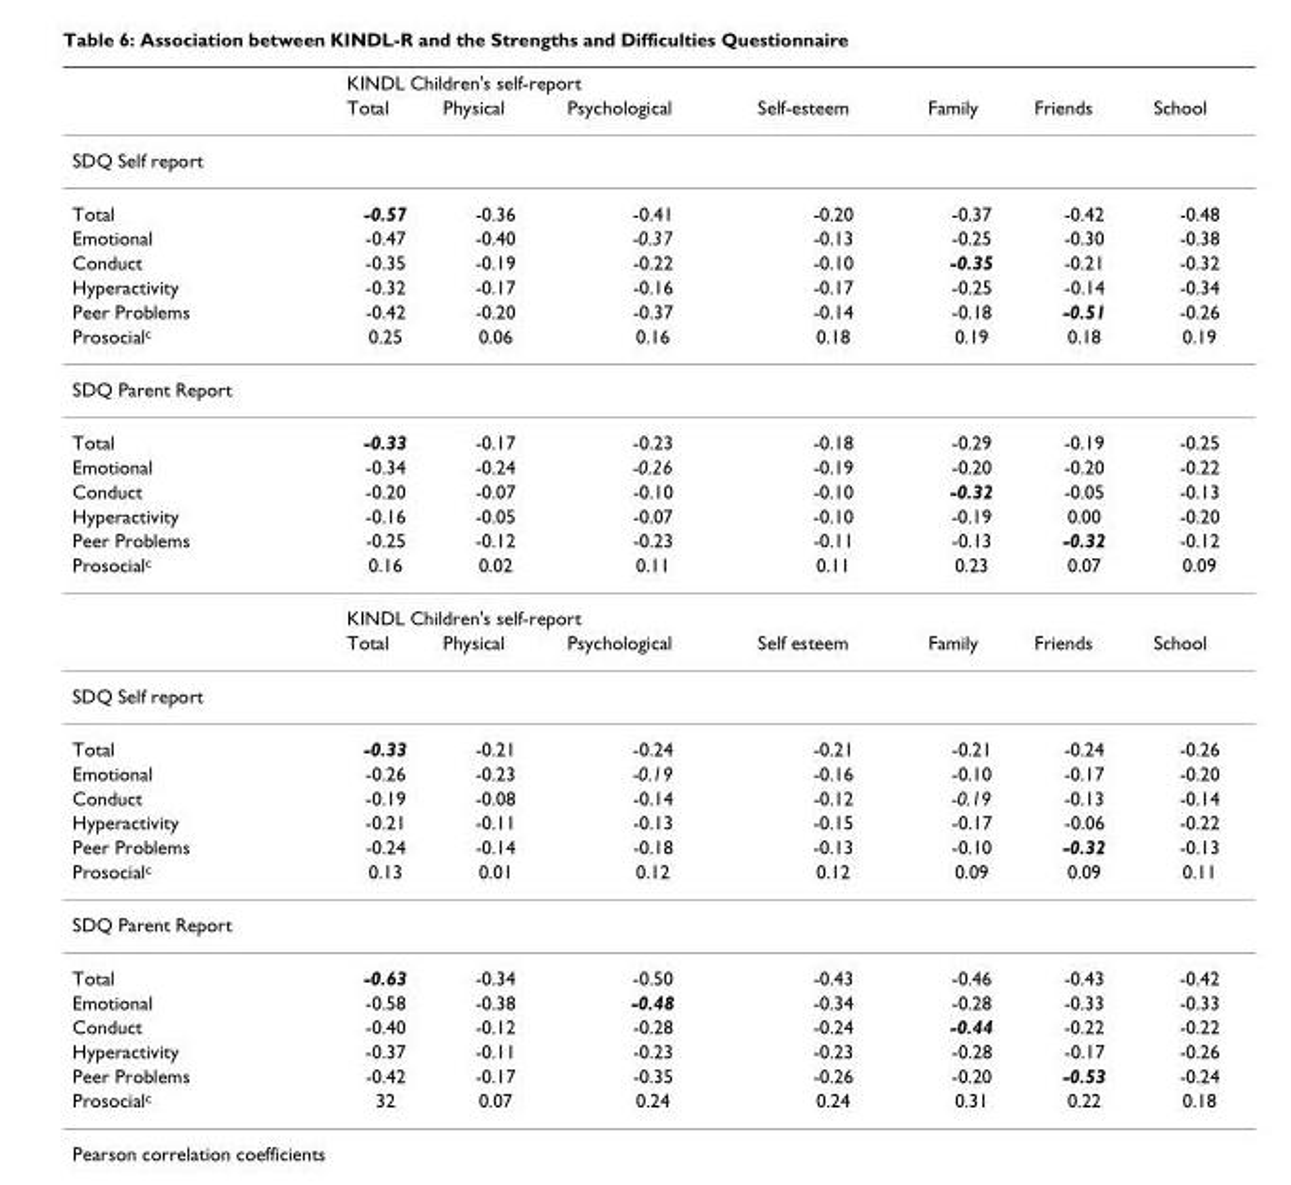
<table><thead><tr><td rowspan="2"></td><td colspan="7">KINDL Children&#x27;s self-report</td></tr><tr><td>Total</td><td>Physical</td><td>Psychological</td><td>Self-esteem</td><td>Family</td><td>Friends</td><td>School</td></tr></thead><tbody><tr><td colspan="8">SDQ Self report</td></tr><tr><td>Total</td><td>-0.57</td><td>-0.36</td><td>-0.41</td><td>-0.20</td><td>-0.37</td><td>-0.42</td><td>-0.48</td></tr><tr><td>Emotional</td><td>-0.47</td><td>-0.40</td><td>-0.37</td><td>-0.13</td><td>-0.25</td><td>-0.30</td><td>-0.38</td></tr><tr><td>Conduct</td><td>-0.35</td><td>-0.19</td><td>-0.22</td><td>-0.10</td><td>-0.35</td><td>-0.21</td><td>-0.32</td></tr><tr><td>Hyperactivity</td><td>-0.32</td><td>-0.17</td><td>-0.16</td><td>-0.17</td><td>-0.25</td><td>-0.14</td><td>-0.34</td></tr><tr><td>Peer Problems</td><td>-0.42</td><td>-0.20</td><td>-0.37</td><td>-0.14</td><td>-0.18</td><td>-0.51</td><td>-0.26</td></tr><tr><td>Prosocial<sup>c</sup></td><td>0.25</td><td>0.06</td><td>0.16</td><td>0.18</td><td>0.19</td><td>0.18</td><td>0.19</td></tr><tr><td colspan="8">SDQ Parent Report</td></tr><tr><td>Total</td><td>-0.33</td><td>-0.17</td><td>-0.23</td><td>-0.18</td><td>-0.29</td><td>-0.19</td><td>-0.25</td></tr><tr><td>Emotional</td><td>-0.34</td><td>-0.24</td><td>-0.26</td><td>-0.19</td><td>-0.20</td><td>-0.20</td><td>-0.22</td></tr><tr><td>Conduct</td><td>-0.20</td><td>-0.07</td><td>-0.10</td><td>-0.10</td><td>-0.32</td><td>-0.05</td><td>-0.13</td></tr><tr><td>Hyperactivity</td><td>-0.16</td><td>-0.05</td><td>-0.07</td><td>-0.10</td><td>-0.19</td><td>0.00</td><td>-0.20</td></tr><tr><td>Peer Problems</td><td>-0.25</td><td>-0.12</td><td>-0.23</td><td>-0.11</td><td>-0.13</td><td>-0.32</td><td>-0.12</td></tr><tr><td rowspan="3">Prosocial<sup>c</sup></td><td>0.16</td><td>0.02</td><td>0.11</td><td>0.11</td><td>0.23</td><td>0.07</td><td>0.09</td></tr><tr><td colspan="7">KINDL Children&#x27;s self-report</td></tr><tr><td>Total</td><td>Physical</td><td>Psychological</td><td>Self esteem</td><td>Family</td><td>Friends</td><td>School</td></tr><tr><td colspan="8">SDQ Self report</td></tr><tr><td>Total</td><td>-0.33</td><td>-0.21</td><td>-0.24</td><td>-0.21</td><td>-0.21</td><td>-0.24</td><td>-0.26</td></tr><tr><td>Emotional</td><td>-0.26</td><td>-0.23</td><td>-0.19</td><td>-0.16</td><td>-0.10</td><td>-0.17</td><td>-0.20</td></tr><tr><td>Conduct</td><td>-0.19</td><td>-0.08</td><td>-0.14</td><td>-0.12</td><td>-0.19</td><td>-0.13</td><td>-0.14</td></tr><tr><td>Hyperactivity</td><td>-0.21</td><td>-0.11</td><td>-0.13</td><td>-0.15</td><td>-0.17</td><td>-0.06</td><td>-0.22</td></tr><tr><td>Peer Problems</td><td>-0.24</td><td>-0.14</td><td>-0.18</td><td>-0.13</td><td>-0.10</td><td>-0.32</td><td>-0.13</td></tr><tr><td>Prosocial<sup>c</sup></td><td>0.13</td><td>0.01</td><td>0.12</td><td>0.12</td><td>0.09</td><td>0.09</td><td>0.11</td></tr><tr><td colspan="8">SDQ Parent Report</td></tr><tr><td>Total</td><td>-0.63</td><td>-0.34</td><td>-0.50</td><td>-0.43</td><td>-0.46</td><td>-0.43</td><td>-0.42</td></tr><tr><td>Emotional</td><td>-0.58</td><td>-0.38</td><td>-0.48</td><td>-0.34</td><td>-0.28</td><td>-0.33</td><td>-0.33</td></tr><tr><td>Conduct</td><td>-0.40</td><td>-0.12</td><td>-0.28</td><td>-0.24</td><td>-0.44</td><td>-0.22</td><td>-0.22</td></tr><tr><td>Hyperactivity</td><td>-0.37</td><td>-0.11</td><td>-0.23</td><td>-0.23</td><td>-0.28</td><td>-0.17</td><td>-0.26</td></tr><tr><td>Peer Problems</td><td>-0.42</td><td>-0.17</td><td>-0.35</td><td>-0.26</td><td>-0.20</td><td>-0.53</td><td>-0.24</td></tr><tr><td>Prosocial<sup>c</sup></td><td>32</td><td>0.07</td><td>0.24</td><td>0.24</td><td>0.31</td><td>0.22</td><td>0.18</td></tr></tbody></table>